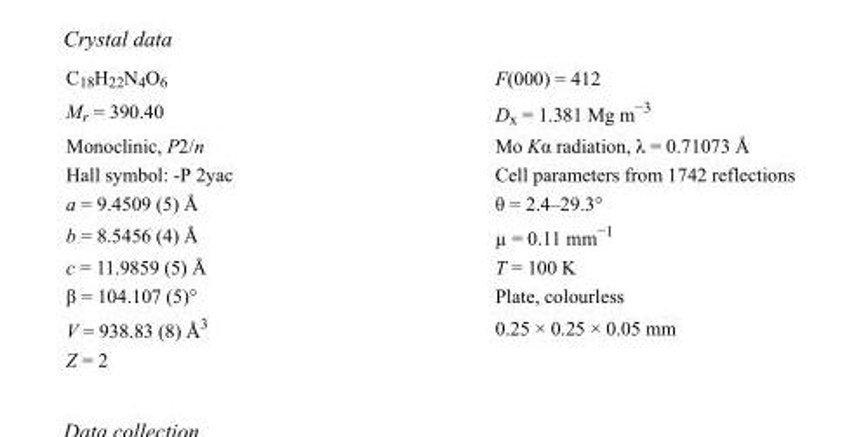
<table><tbody><tr><td>C<sub>18</sub>H<sub>22</sub>N<sub>4</sub>O<sub>6</sub></td><td>F(000) = 412</td></tr><tr><td>M<sub>r</sub> = 390.40</td><td>D<sub>x</sub> = 1.381 Mg m<sup>−3</sup></td></tr><tr><td>Monoclinic, P2/n</td><td>Mo Kα radiation, λ = 0.71073 Å</td></tr><tr><td>Hall symbol: -P 2yac</td><td>Cell parameters from 1742 reflections</td></tr><tr><td>a = 9.4509 (5) Å</td><td>θ = 2.4–29.3°</td></tr><tr><td>b = 8.5456 (4) Å</td><td>µ = 0.11 mm<sup>−1</sup></td></tr><tr><td>c = 11.9859 (5) Å</td><td>T = 100 K</td></tr><tr><td>β = 104.107 (5)°</td><td>Plate, colourless</td></tr><tr><td>V = 938.83 (8) Å<sup>3</sup></td><td>0.25 × 0.25 × 0.05 mm</td></tr><tr><td>Z = 2</td><td></td></tr></tbody></table>